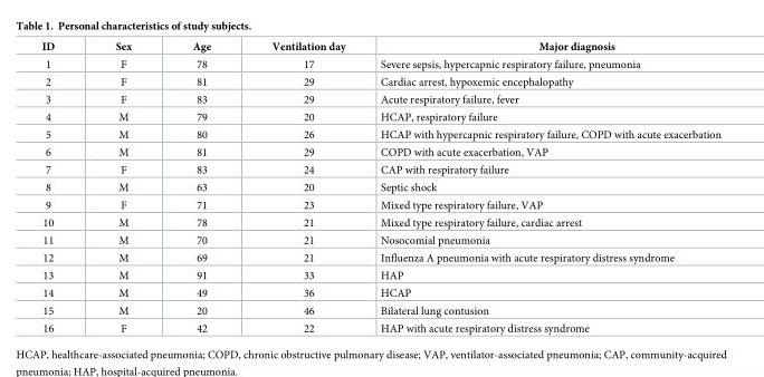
<table><thead><tr><td>ID</td><td>Sex</td><td>Age</td><td>Ventilation day</td><td>Major diagnosis</td></tr></thead><tbody><tr><td>1</td><td>F</td><td>78</td><td>17</td><td>Severe sepsis, hypercapnic respiratory failure, pneumonia</td></tr><tr><td>2</td><td>F</td><td>81</td><td>29</td><td>Cardiac arrest, hypoxemic encephalopathy</td></tr><tr><td>3</td><td>F</td><td>83</td><td>29</td><td>Acute respiratory failure, fever</td></tr><tr><td>4</td><td>M</td><td>79</td><td>20</td><td>HCAP, respiratory failure</td></tr><tr><td>5</td><td>M</td><td>80</td><td>26</td><td>HCAP with hypercapnic respiratory failure, COPD with acute exacerbation</td></tr><tr><td>6</td><td>M</td><td>81</td><td>29</td><td>COPD with acute exacerbation, VAP</td></tr><tr><td>7</td><td>F</td><td>83</td><td>24</td><td>CAP with respiratory failure</td></tr><tr><td>8</td><td>M</td><td>63</td><td>20</td><td>Septic shock</td></tr><tr><td>9</td><td>F</td><td>71</td><td>23</td><td>Mixed type respiratory failure, VAP</td></tr><tr><td>10</td><td>M</td><td>78</td><td>21</td><td>Mixed type respiratory failure, cardiac arrest</td></tr><tr><td>11</td><td>M</td><td>70</td><td>21</td><td>Nosocomial pneumonia</td></tr><tr><td>12</td><td>M</td><td>69</td><td>21</td><td>Influenza A pneumonia with acute respiratory distress syndrome</td></tr><tr><td>13</td><td>M</td><td>91</td><td>33</td><td>HAP</td></tr><tr><td>14</td><td>M</td><td>49</td><td>36</td><td>HCAP</td></tr><tr><td>15</td><td>M</td><td>20</td><td>46</td><td>Bilateral lung contusion</td></tr><tr><td>16</td><td>F</td><td>42</td><td>22</td><td>HAP with acute respiratory distress syndrome</td></tr></tbody></table>